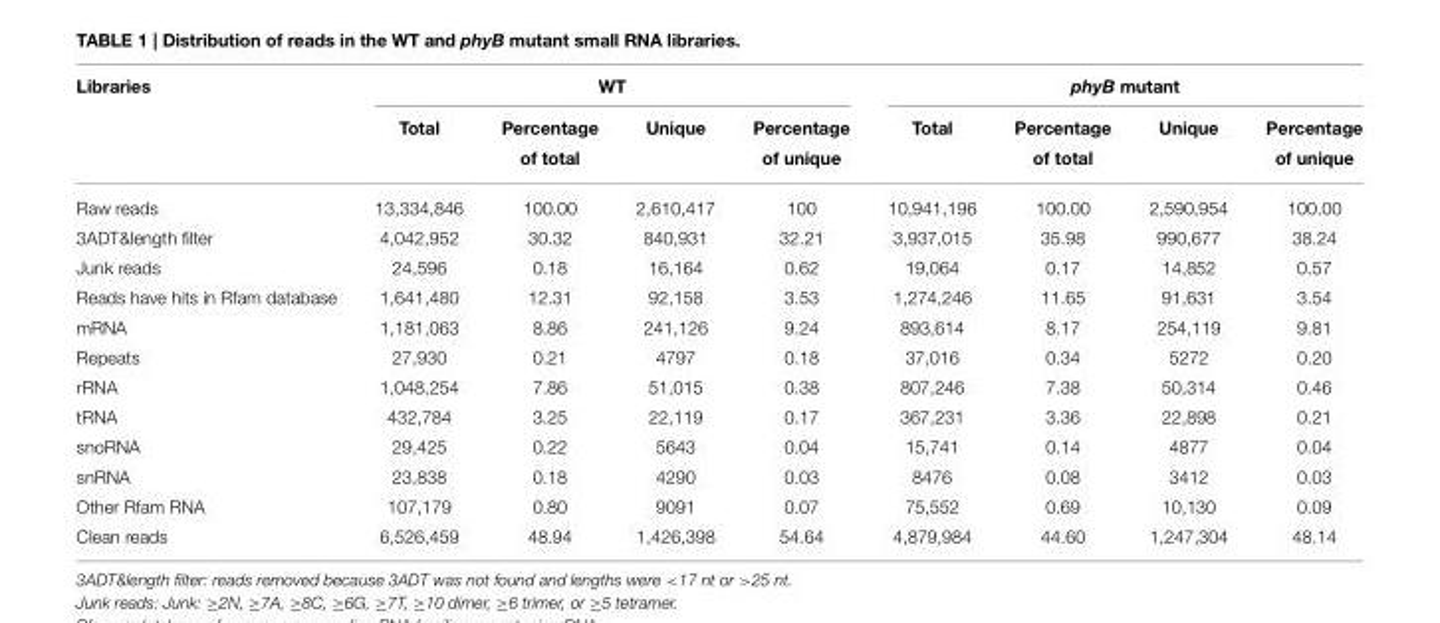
<table><thead><tr><td rowspan="2">Libraries</td><td colspan="4">WT</td><td colspan="4">phyB mutant</td></tr><tr><td>Total</td><td>Percentage of total</td><td>Unique</td><td>Percentage of unique</td><td>Total</td><td>Percentage of total</td><td>Unique</td><td>Percentage of unique</td></tr></thead><tbody><tr><td>Raw reads</td><td>13,334,846</td><td>100.00</td><td>2,610,417</td><td>100</td><td>10,941,196</td><td>100.00</td><td>2,590,954</td><td>100.00</td></tr><tr><td>3ADT&amp;length filter</td><td>4,042,952</td><td>30.32</td><td>840,931</td><td>32.21</td><td>3,937,015</td><td>35.98</td><td>990,677</td><td>38.24</td></tr><tr><td>Junk reads</td><td>24,596</td><td>0.18</td><td>16,164</td><td>0.62</td><td>19,064</td><td>0.17</td><td>14,852</td><td>0.57</td></tr><tr><td>Reads have hits in Rfam database</td><td>1,641,480</td><td>12.31</td><td>92,158</td><td>3.53</td><td>1,274,246</td><td>11.65</td><td>91,631</td><td>3.54</td></tr><tr><td>mRNA</td><td>1,181,063</td><td>8.86</td><td>241,126</td><td>9.24</td><td>893,614</td><td>8.17</td><td>254,119</td><td>9.81</td></tr><tr><td>Repeats</td><td>27,930</td><td>0.21</td><td>4797</td><td>0.18</td><td>37,016</td><td>0.34</td><td>5272</td><td>0.20</td></tr><tr><td>rRNA</td><td>1,048,254</td><td>7.86</td><td>51,015</td><td>0.38</td><td>807,246</td><td>7.38</td><td>50,314</td><td>0.46</td></tr><tr><td>tRNA</td><td>432,784</td><td>3.25</td><td>22,119</td><td>0.17</td><td>367,231</td><td>3.36</td><td>22,898</td><td>0.21</td></tr><tr><td>snoRNA</td><td>29,425</td><td>0.22</td><td>5643</td><td>0.04</td><td>15,741</td><td>0.14</td><td>4877</td><td>0.04</td></tr><tr><td>snRNA</td><td>23,838</td><td>0.18</td><td>4290</td><td>0.03</td><td>8476</td><td>0.08</td><td>3412</td><td>0.03</td></tr><tr><td>Other Rfam RNA</td><td>107,179</td><td>0.80</td><td>9091</td><td>0.07</td><td>75,552</td><td>0.69</td><td>10,130</td><td>0.09</td></tr><tr><td>Clean reads</td><td>6,526,459</td><td>48.94</td><td>1,426,398</td><td>54.64</td><td>4,879,984</td><td>44.60</td><td>1,247,304</td><td>48.14</td></tr></tbody></table>